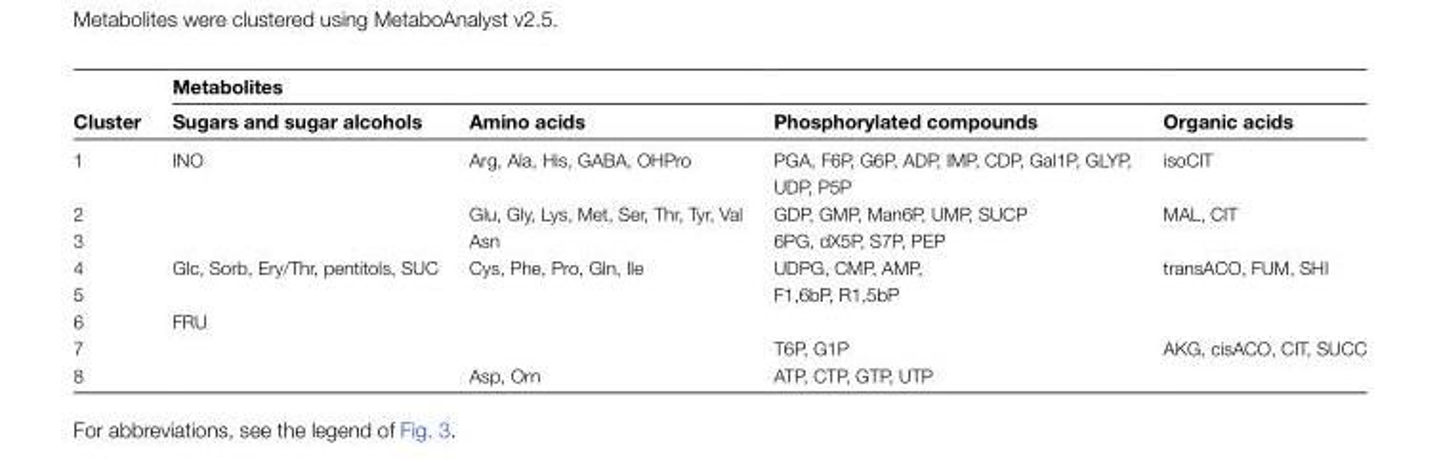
<table><thead><tr><td rowspan="2">Cluster</td><td colspan="4">Metabolites</td></tr><tr><td>Sugars and sugar alcohols</td><td>Amino acids</td><td>Phosphorylated compounds</td><td>Organic acids</td></tr></thead><tbody><tr><td>1</td><td>INO</td><td>Arg, Ala, His, GABA, OHPro</td><td>PGA, F6P, G6P, ADP, IMP, CDP, Gal1P, GLYP, UDP, P5P</td><td>isoCIT</td></tr><tr><td>2</td><td></td><td>Glu, Gly, Lys, Met, Ser, Thr, Tyr, Val</td><td>GDP, GMP, Man6P, UMP, SUCP</td><td>MAL, CIT</td></tr><tr><td>3</td><td></td><td>Asn</td><td>6PG, dX5P, S7P, PEP</td><td></td></tr><tr><td>4</td><td>Glc, Sorb, Ery/Thr, pentitols, SUC</td><td>Cys, Phe, Pro, Gln, Ile</td><td>UDPG, CMP, AMP,</td><td>transACO, FUM, SHI</td></tr><tr><td>5</td><td></td><td></td><td>F1,6bP, R1,5bP</td><td></td></tr><tr><td>6</td><td>FRU</td><td></td><td></td><td></td></tr><tr><td>7</td><td></td><td></td><td>T6P, G1P</td><td>AKG, cisACO, CIT, SUCC</td></tr><tr><td>8</td><td></td><td>Asp, Orn</td><td>ATP, CTP, GTP, UTP</td><td></td></tr></tbody></table>